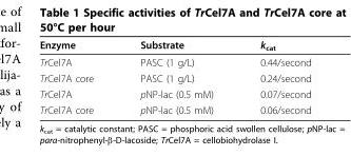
<table><thead><tr><td>Enzyme</td><td>Substrate</td><td>k<sub>cat</sub></td></tr></thead><tbody><tr><td>TrCel7A</td><td>PASC (1 g/L)</td><td>0.44/second</td></tr><tr><td>TrCel7A core</td><td>PASC (1 g/L)</td><td>0.24/second</td></tr><tr><td>TrCel7A</td><td>pNP-lac (0.5 mM)</td><td>0.07/second</td></tr><tr><td>TrCel7A core</td><td>pNP-lac (0.5 mM)</td><td>0.06/second</td></tr></tbody></table>